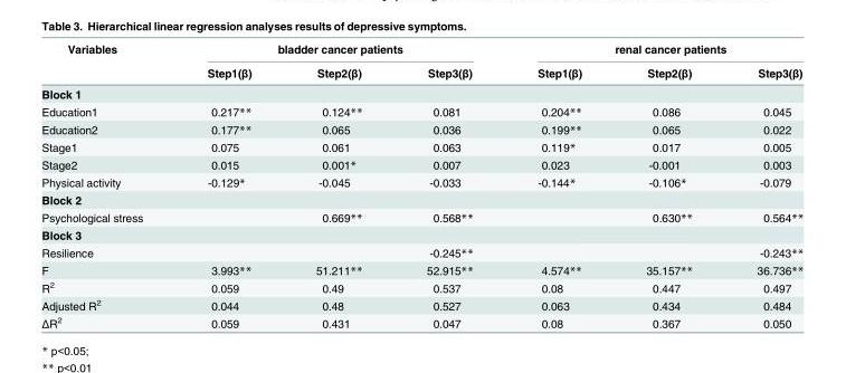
<table><thead><tr><td rowspan="2">Variables</td><td colspan="3">bladder cancer patients</td><td colspan="3">renal cancer patients</td></tr><tr><td>Step1(β)</td><td>Step2(β)</td><td>Step3(β)</td><td>Step1(β)</td><td>Step2(β)</td><td>Step3(β)</td></tr></thead><tbody><tr><td colspan="7">Block 1</td></tr><tr><td>Education1</td><td>0.217**</td><td>0.124**</td><td>0.081</td><td>0.204**</td><td>0.086</td><td>0.045</td></tr><tr><td>Education2</td><td>0.177**</td><td>0.065</td><td>0.036</td><td>0.199**</td><td>0.065</td><td>0.022</td></tr><tr><td>Stage1</td><td>0.075</td><td>0.061</td><td>0.063</td><td>0.119*</td><td>0.017</td><td>0.005</td></tr><tr><td>Stage2</td><td>0.015</td><td>0.001*</td><td>0.007</td><td>0.023</td><td>-0.001</td><td>0.003</td></tr><tr><td>Physical activity</td><td>-0.129*</td><td>-0.045</td><td>-0.033</td><td>-0.144*</td><td>-0.106*</td><td>-0.079</td></tr><tr><td colspan="7">Block 2</td></tr><tr><td>Psychological stress</td><td></td><td>0.669**</td><td>0.568**</td><td></td><td>0.630**</td><td>0.564**</td></tr><tr><td colspan="7">Block 3</td></tr><tr><td>Resilience</td><td></td><td></td><td>-0.245**</td><td></td><td></td><td>-0.243**</td></tr><tr><td>F</td><td>3.993**</td><td>51.211**</td><td>52.915**</td><td>4.574**</td><td>35.157**</td><td>36.736**</td></tr><tr><td>R<sup>2</sup></td><td>0.059</td><td>0.49</td><td>0.537</td><td>0.08</td><td>0.447</td><td>0.497</td></tr><tr><td>Adjusted R<sup>2</sup></td><td>0.044</td><td>0.48</td><td>0.527</td><td>0.063</td><td>0.434</td><td>0.484</td></tr><tr><td>ΔR<sup>2</sup></td><td>0.059</td><td>0.431</td><td>0.047</td><td>0.08</td><td>0.367</td><td>0.050</td></tr></tbody></table>